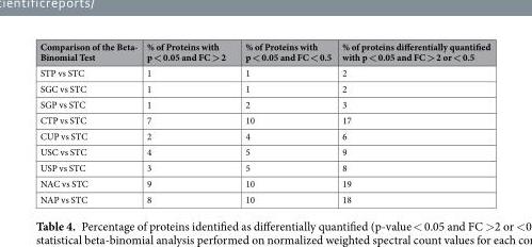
<table><thead><tr><td>Comparison of the Beta- Binomial Test</td><td>% of Proteins with p &lt; 0.05 and FC &gt; 2</td><td>% of Proteins with p &lt; 0.05 and FC &lt; 0.5</td><td>% of proteins differentially quantified with p &lt; 0.05 and FC &gt; 2 or &lt; 0.5</td></tr></thead><tbody><tr><td>STP vs STC</td><td>1</td><td>1</td><td>2</td></tr><tr><td>SGC vs STC</td><td>1</td><td>1</td><td>2</td></tr><tr><td>SGP vs STC</td><td>1</td><td>2</td><td>3</td></tr><tr><td>CTP vs STC</td><td>7</td><td>10</td><td>17</td></tr><tr><td>CUP vs STC</td><td>2</td><td>4</td><td>6</td></tr><tr><td>USC vs STC</td><td>4</td><td>5</td><td>9</td></tr><tr><td>USP vs STC</td><td>3</td><td>5</td><td>8</td></tr><tr><td>NAC vs STC</td><td>9</td><td>10</td><td>19</td></tr><tr><td>NAP vs STC</td><td>8</td><td>10</td><td>18</td></tr></tbody></table>